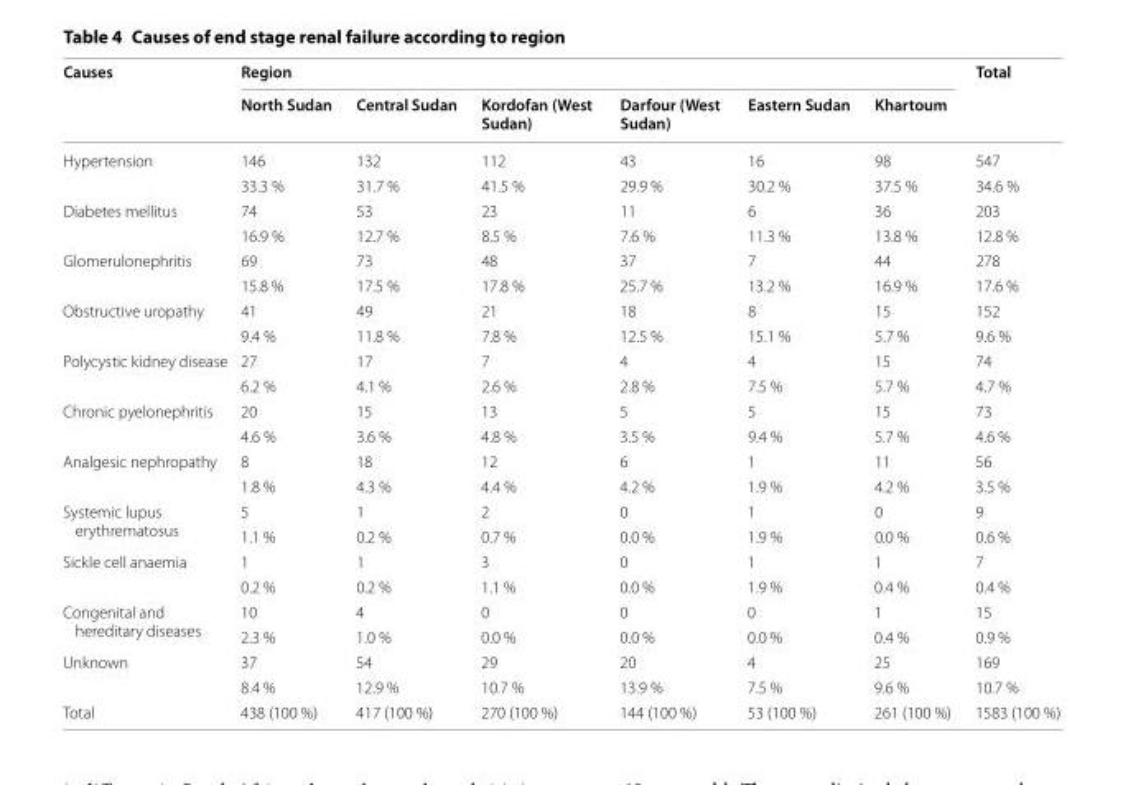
<table><thead><tr><td rowspan="2">Causes</td><td colspan="6">Region</td><td rowspan="2">Total</td></tr><tr><td>North Sudan</td><td>Central Sudan</td><td>Kordofan (West Sudan)</td><td>Darfour (West Sudan)</td><td>Eastern Sudan</td><td>Khartoum</td></tr></thead><tbody><tr><td rowspan="2">Hypertension</td><td>146</td><td>132</td><td>112</td><td>43</td><td>16</td><td>98</td><td>547</td></tr><tr><td>33.3 %</td><td>31.7 %</td><td>41.5 %</td><td>29.9 %</td><td>30.2 %</td><td>37.5 %</td><td>34.6 %</td></tr><tr><td rowspan="2">Diabetes mellitus</td><td>74</td><td>53</td><td>23</td><td>11</td><td>6</td><td>36</td><td>203</td></tr><tr><td>16.9 %</td><td>12.7 %</td><td>8.5 %</td><td>7.6 %</td><td>11.3 %</td><td>13.8 %</td><td>12.8 %</td></tr><tr><td rowspan="2">Glomerulonephritis</td><td>69</td><td>73</td><td>48</td><td>37</td><td>7</td><td>44</td><td>278</td></tr><tr><td>15.8 %</td><td>17.5 %</td><td>17.8 %</td><td>25.7 %</td><td>13.2 %</td><td>16.9 %</td><td>17.6 %</td></tr><tr><td rowspan="2">Obstructive uropathy</td><td>41</td><td>49</td><td>21</td><td>18</td><td>8</td><td>15</td><td>152</td></tr><tr><td>9.4 %</td><td>11.8 %</td><td>7.8 %</td><td>12.5 %</td><td>15.1 %</td><td>5.7 %</td><td>9.6 %</td></tr><tr><td rowspan="2">Polycystic kidney disease</td><td>27</td><td>17</td><td>7</td><td>4</td><td>4</td><td>15</td><td>74</td></tr><tr><td>6.2 %</td><td>4.1 %</td><td>2.6 %</td><td>2.8 %</td><td>7.5 %</td><td>5.7 %</td><td>4.7 %</td></tr><tr><td rowspan="2">Chronic pyelonephritis</td><td>20</td><td>15</td><td>13</td><td>5</td><td>5</td><td>15</td><td>73</td></tr><tr><td>4.6 %</td><td>3.6 %</td><td>4.8 %</td><td>3.5 %</td><td>9.4 %</td><td>5.7 %</td><td>4.6 %</td></tr><tr><td rowspan="2">Analgesic nephropathy</td><td>8</td><td>18</td><td>12</td><td>6</td><td>1</td><td>11</td><td>56</td></tr><tr><td>1.8 %</td><td>4.3 %</td><td>4.4 %</td><td>4.2 %</td><td>1.9 %</td><td>4.2 %</td><td>3.5 %</td></tr><tr><td rowspan="2">Systemic lupus erythrematosus</td><td>5</td><td>1</td><td>2</td><td>0</td><td>1</td><td>0</td><td>9</td></tr><tr><td>1.1 %</td><td>0.2 %</td><td>0.7 %</td><td>0.0 %</td><td>1.9 %</td><td>0.0 %</td><td>0.6 %</td></tr><tr><td rowspan="2">Sickle cell anaemia</td><td>1</td><td>1</td><td>3</td><td>0</td><td>1</td><td>1</td><td>7</td></tr><tr><td>0.2 %</td><td>0.2 %</td><td>1.1 %</td><td>0.0 %</td><td>1.9 %</td><td>0.4 %</td><td>0.4 %</td></tr><tr><td rowspan="2">Congenital and hereditary diseases</td><td>10</td><td>4</td><td>0</td><td>0</td><td>0</td><td>1</td><td>15</td></tr><tr><td>2.3 %</td><td>1.0 %</td><td>0.0 %</td><td>0.0 %</td><td>0.0 %</td><td>0.4 %</td><td>0.9 %</td></tr><tr><td rowspan="2">Unknown</td><td>37</td><td>54</td><td>29</td><td>20</td><td>4</td><td>25</td><td>169</td></tr><tr><td>8.4 %</td><td>12.9 %</td><td>10.7 %</td><td>13.9 %</td><td>7.5 %</td><td>9.6 %</td><td>10.7 %</td></tr><tr><td>Total</td><td>438 (100 %)</td><td>417 (100 %)</td><td>270 (100 %)</td><td>144 (100 %)</td><td>53 (100 %)</td><td>261 (100 %)</td><td>1583 (100 %)</td></tr></tbody></table>